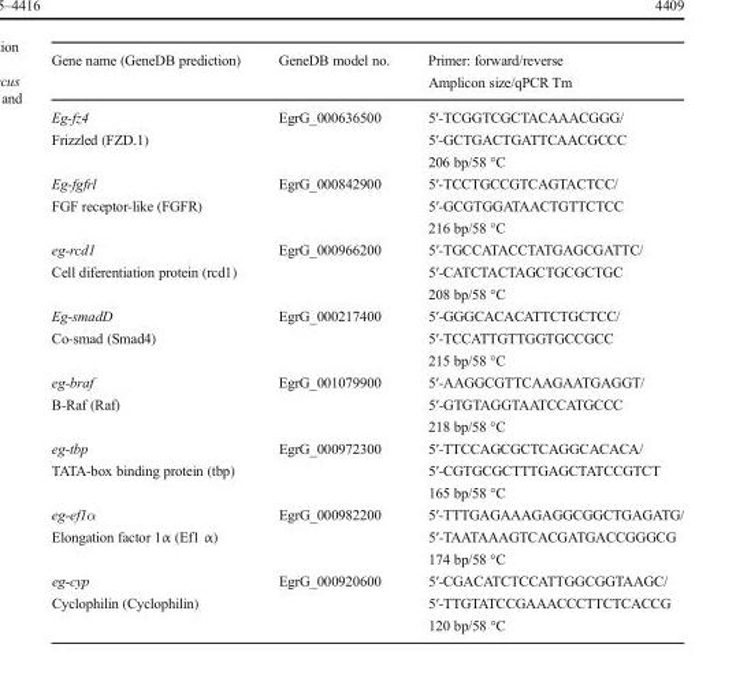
<table><thead><tr><td>Gene name (GeneDB prediction)</td><td>GeneDB model no.</td><td>Primer: forward/reverse Amplicon size/qPCR Tm</td></tr></thead><tbody><tr><td>Eg-fz4 Frizzled (FZD.1)</td><td>EgrG_000636500</td><td>5′-TCGGTCGCTACAAACGGG/ 5′-GCTGACTGATTCAACGCCC 206 bp/58 °C</td></tr><tr><td>Eg-fgfrl FGF receptor-like (FGFR)</td><td>EgrG_000842900</td><td>5′-TCCTGCCGTCAGTACTCC/ 5′-GCGTGGATAACTGTTCTCC 216 bp/58 °C</td></tr><tr><td>eg-rcd1 Cell diferentiation protein (rcd1)</td><td>EgrG_000966200</td><td>5′-TGCCATACCTATGAGCGATTC/ 5′-CATCTACTAGCTGCGCTGC 208 bp/58 °C</td></tr><tr><td>Eg-smadD Co-smad (Smad4)</td><td>EgrG_000217400</td><td>5′-GGGCACACATTCTGCTCC/ 5′-TCCATTGTTGGTGCCGCC 215 bp/58 °C</td></tr><tr><td>eg-braf B-Raf (Raf)</td><td>EgrG_001079900</td><td>5′-AAGGCGTTCAAGAATGAGGT/ 5′-GTGTAGGTAATCCATGCCC 218 bp/58 °C</td></tr><tr><td>eg-tbp TATA-box binding protein (tbp)</td><td>EgrG_000972300</td><td>5′-TTCCAGCGCTCAGGCACACA/ 5′-CGTGCGCTTTGAGCTATCCGTCT 165 bp/58 °C</td></tr><tr><td>eg-ef1α Elongation factor 1α (Ef1 α)</td><td>EgrG_000982200</td><td>5′-TTTGAGAAAGAGGCGGCTGAGATG/ 5′-TAATAAAGTCACGATGACCGGGCG 174 bp/58 °C</td></tr><tr><td>eg-cyp Cyclophilin (Cyclophilin)</td><td>EgrG_000920600</td><td>5′-CGACATCTCCATTGGCGGTAAGC/ 5′-TTGTATCCGAAACCCTTCTCACCG 120 bp/58 °C</td></tr></tbody></table>